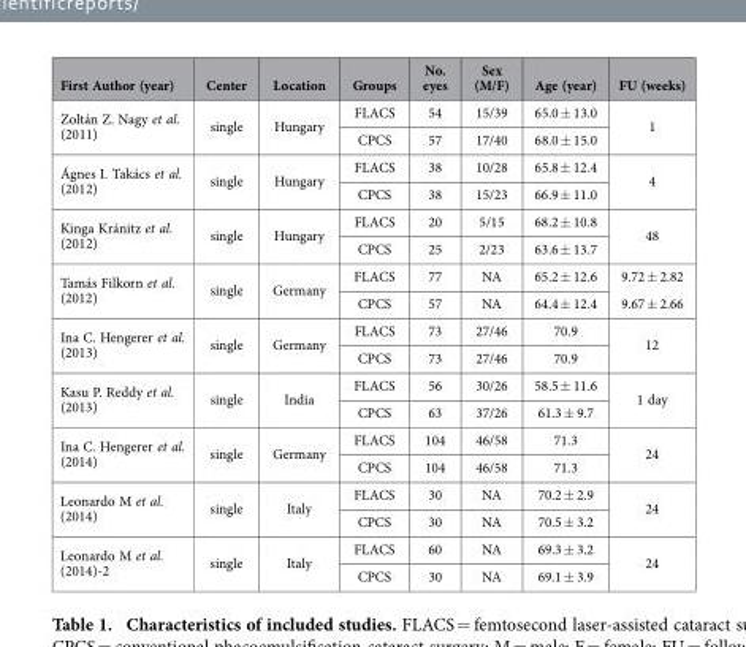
<table><thead><tr><td>First Author (year)</td><td>Center</td><td>Location</td><td>Groups</td><td>No. eyes</td><td>Sex (M/F)</td><td>Age (year)</td><td>FU (weeks)</td></tr></thead><tbody><tr><td rowspan="2">Zoltán Z. Nagy et al. (2011)</td><td rowspan="2">single</td><td rowspan="2">Hungary</td><td>FLACS</td><td>54</td><td>15/39</td><td>65.0 ± 13.0</td><td rowspan="2">1</td></tr><tr><td>CPCS</td><td>57</td><td>17/40</td><td>68.0 ± 15.0</td></tr><tr><td rowspan="2">Ágnes I. Takács et al. (2012)</td><td rowspan="2">single</td><td rowspan="2">Hungary</td><td>FLACS</td><td>38</td><td>10/28</td><td>65.8 ± 12.4</td><td rowspan="2">4</td></tr><tr><td>CPCS</td><td>38</td><td>15/23</td><td>66.9 ± 11.0</td></tr><tr><td rowspan="2">Kinga Kránitz et al. (2012)</td><td rowspan="2">single</td><td rowspan="2">Hungary</td><td>FLACS</td><td>20</td><td>5/15</td><td>68.2 ± 10.8</td><td rowspan="2">48</td></tr><tr><td>CPCS</td><td>25</td><td>2/23</td><td>63.6 ± 13.7</td></tr><tr><td rowspan="2">Tamás Filkorn et al. (2012)</td><td rowspan="2">single</td><td rowspan="2">Germany</td><td>FLACS</td><td>77</td><td>NA</td><td>65.2 ± 12.6</td><td rowspan="2">9.72 ± 2.82 9.67 ± 2.66</td></tr><tr><td>CPCS</td><td>57</td><td>NA</td><td>64.4 ± 12.4</td></tr><tr><td rowspan="2">Ina C. Hengerer et al. (2013)</td><td rowspan="2">single</td><td rowspan="2">Germany</td><td>FLACS</td><td>73</td><td>27/46</td><td>70.9</td><td rowspan="2">12</td></tr><tr><td>CPCS</td><td>73</td><td>27/46</td><td>70.9</td></tr><tr><td rowspan="2">Kasu P. Reddy et al. (2013)</td><td rowspan="2">single</td><td rowspan="2">India</td><td>FLACS</td><td>56</td><td>30/26</td><td>58.5 ± 11.6</td><td rowspan="2">1 day</td></tr><tr><td>CPCS</td><td>63</td><td>37/26</td><td>61.3 ± 9.7</td></tr><tr><td rowspan="2">Ina C. Hengerer et al. (2014)</td><td rowspan="2">single</td><td rowspan="2">Germany</td><td>FLACS</td><td>104</td><td>46/58</td><td>71.3</td><td rowspan="2">24</td></tr><tr><td>CPCS</td><td>104</td><td>46/58</td><td>71.3</td></tr><tr><td rowspan="2">Leonardo M et al. (2014)</td><td rowspan="2">single</td><td rowspan="2">Italy</td><td>FLACS</td><td>30</td><td>NA</td><td>70.2 ± 2.9</td><td rowspan="2">24</td></tr><tr><td>CPCS</td><td>30</td><td>NA</td><td>70.5 ± 3.2</td></tr><tr><td rowspan="2">Leonardo M et al. (2014)-2</td><td rowspan="2">single</td><td rowspan="2">Italy</td><td>FLACS</td><td>60</td><td>NA</td><td>69.3 ± 3.2</td><td rowspan="2">24</td></tr><tr><td>CPCS</td><td>30</td><td>NA</td><td>69.1 ± 3.9</td></tr></tbody></table>